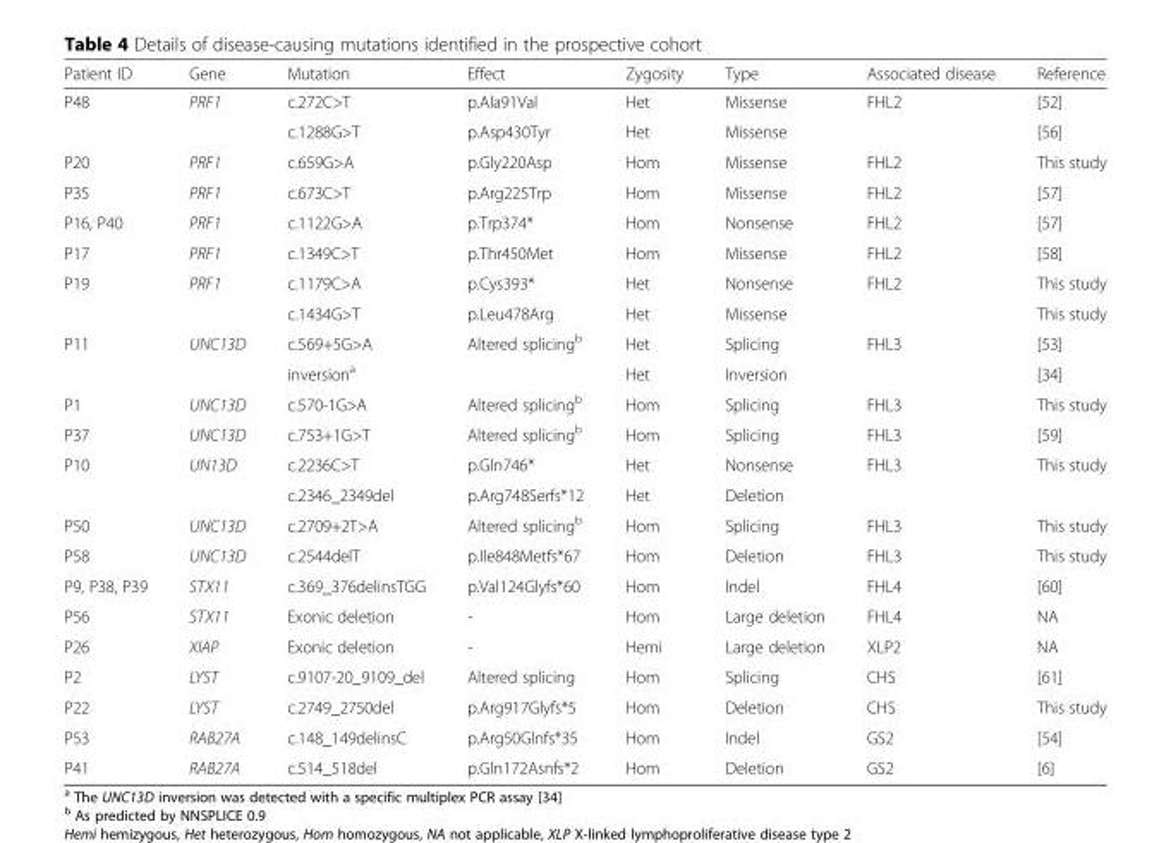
<table><thead><tr><td>Patient ID</td><td>Gene</td><td>Mutation</td><td>Effect</td><td>Zygosity</td><td>Type</td><td>Associated disease</td><td>Reference</td></tr></thead><tbody><tr><td rowspan="2">P48</td><td rowspan="2">PRF1</td><td>c.272C&gt;T</td><td>p.Ala91Val</td><td>Het</td><td>Missense</td><td rowspan="2">FHL2</td><td>[52]</td></tr><tr><td>c.1288G&gt;T</td><td>p.Asp430Tyr</td><td>Het</td><td>Missense</td><td>[56]</td></tr><tr><td>P20</td><td>PRF1</td><td>c.659G&gt;A</td><td>p.Gly220Asp</td><td>Hom</td><td>Missense</td><td>FHL2</td><td>This study</td></tr><tr><td>P35</td><td>PRF1</td><td>c.673C&gt;T</td><td>p.Arg225Trp</td><td>Hom</td><td>Missense</td><td>FHL2</td><td>[57]</td></tr><tr><td>P16, P40</td><td>PRF1</td><td>c.1122G&gt;A</td><td>p.Trp374*</td><td>Hom</td><td>Nonsense</td><td>FHL2</td><td>[57]</td></tr><tr><td>P17</td><td>PRF1</td><td>c.1349C&gt;T</td><td>p.Thr450Met</td><td>Hom</td><td>Missense</td><td>FHL2</td><td>[58]</td></tr><tr><td rowspan="2">P19</td><td rowspan="2">PRF1</td><td>c.1179C&gt;A</td><td>p.Cys393*</td><td>Het</td><td>Nonsense</td><td rowspan="2">FHL2</td><td>This study</td></tr><tr><td>c.1434G&gt;T</td><td>p.Leu478Arg</td><td>Het</td><td>Missense</td><td>This study</td></tr><tr><td rowspan="2">P11</td><td rowspan="2">UNC13D</td><td>c.569+5G&gt;A</td><td rowspan="2">Altered splicing<sup>b</sup></td><td>Het</td><td>Splicing</td><td rowspan="2">FHL3</td><td>[53]</td></tr><tr><td>inversion<sup>a</sup></td><td>Het</td><td>Inversion</td><td>[34]</td></tr><tr><td>P1</td><td>UNC13D</td><td>c.570-1G&gt;A</td><td>Altered splicing<sup>b</sup></td><td>Hom</td><td>Splicing</td><td>FHL3</td><td>This study</td></tr><tr><td>P37</td><td>UNC13D</td><td>c.753+1G&gt;T</td><td>Altered splicing<sup>b</sup></td><td>Hom</td><td>Splicing</td><td>FHL3</td><td>[59]</td></tr><tr><td rowspan="2">P10</td><td rowspan="2">UN13D</td><td>c.2236C&gt;T</td><td>p.Gln746*</td><td>Het</td><td>Nonsense</td><td rowspan="2">FHL3</td><td rowspan="2">This study</td></tr><tr><td>c.2346_2349del</td><td>p.Arg748Serfs*12</td><td>Het</td><td>Deletion</td></tr><tr><td>P50</td><td>UNC13D</td><td>c.2709+2T&gt;A</td><td>Altered splicing<sup>b</sup></td><td>Hom</td><td>Splicing</td><td>FHL3</td><td>This study</td></tr><tr><td>P58</td><td>UNC13D</td><td>c.2544delT</td><td>p.Ile848Metfs*67</td><td>Hom</td><td>Deletion</td><td>FHL3</td><td>This study</td></tr><tr><td>P9, P38, P39</td><td>STX11</td><td>c.369_376delinsTGG</td><td>p.Val124Glyfs*60</td><td>Hom</td><td>Indel</td><td>FHL4</td><td>[60]</td></tr><tr><td>P56</td><td>STX11</td><td>Exonic deletion</td><td>-</td><td>Hom</td><td>Large deletion</td><td>FHL4</td><td>NA</td></tr><tr><td>P26</td><td>XIAP</td><td>Exonic deletion</td><td>-</td><td>Hemi</td><td>Large deletion</td><td>XLP2</td><td>NA</td></tr><tr><td>P2</td><td>LYST</td><td>c.9107-20_9109_del</td><td>Altered splicing</td><td>Hom</td><td>Splicing</td><td>CHS</td><td>[61]</td></tr><tr><td>P22</td><td>LYST</td><td>c.2749_2750del</td><td>p.Arg917Glyfs*5</td><td>Hom</td><td>Deletion</td><td>CHS</td><td>This study</td></tr><tr><td>P53</td><td>RAB27A</td><td>c.148_149delinsC</td><td>p.Arg50Glnfs*35</td><td>Hom</td><td>Indel</td><td>GS2</td><td>[54]</td></tr><tr><td>P41</td><td>RAB27A</td><td>c.514_518del</td><td>p.Gln172Asnfs*2</td><td>Hom</td><td>Deletion</td><td>GS2</td><td>[6]</td></tr></tbody></table>